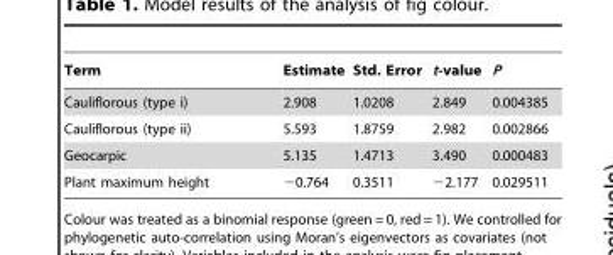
<table><thead><tr><td>Term</td><td>Estimate</td><td>Std. Error</td><td>t-value</td><td>P</td></tr></thead><tbody><tr><td>Cauliflorous (type i)</td><td>2.908</td><td>1.0208</td><td>2.849</td><td>0.004385</td></tr><tr><td>Cauliflorous (type ii)</td><td>5.593</td><td>1.8759</td><td>2.982</td><td>0.002866</td></tr><tr><td>Geocarpic</td><td>5.135</td><td>1.4713</td><td>3.490</td><td>0.000483</td></tr><tr><td>Plant maximum height</td><td>−0.764</td><td>0.3511</td><td>−2.177</td><td>0.029511</td></tr></tbody></table>